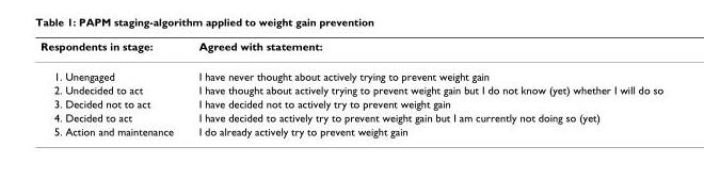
<table><thead><tr><td>Respondents in stage:</td><td>Agreed with statement:</td></tr></thead><tbody><tr><td>1. Unengaged</td><td>I have never thought about actively trying to prevent weight gain</td></tr><tr><td>2. Undecided to act</td><td>I have thought about actively trying to prevent weight gain but I do not know (yet) whether I will do so</td></tr><tr><td>3. Decided not to act</td><td>I have decided not to actively try to prevent weight gain</td></tr><tr><td>4. Decided to act</td><td>I have decided to actively try to prevent weight gain but I am currently not doing so (yet)</td></tr><tr><td>5. Action and maintenance</td><td>I do already actively try to prevent weight gain</td></tr></tbody></table>